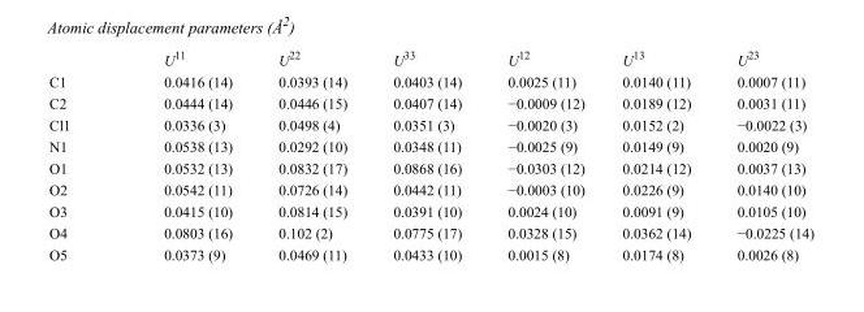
<table><thead><tr><td></td><td>U<sup>11</sup></td><td>U<sup>22</sup></td><td>U<sup>33</sup></td><td>U<sup>12</sup></td><td>U<sup>13</sup></td><td>U<sup>23</sup></td></tr></thead><tbody><tr><td>C1</td><td>0.0416 (14)</td><td>0.0393 (14)</td><td>0.0403 (14)</td><td>0.0025 (11)</td><td>0.0140 (11)</td><td>0.0007 (11)</td></tr><tr><td>C2</td><td>0.0444 (14)</td><td>0.0446 (15)</td><td>0.0407 (14)</td><td>−0.0009 (12)</td><td>0.0189 (12)</td><td>0.0031 (11)</td></tr><tr><td>Cl1</td><td>0.0336 (3)</td><td>0.0498 (4)</td><td>0.0351 (3)</td><td>−0.0020 (3)</td><td>0.0152 (2)</td><td>−0.0022 (3)</td></tr><tr><td>N1</td><td>0.0538 (13)</td><td>0.0292 (10)</td><td>0.0348 (11)</td><td>−0.0025 (9)</td><td>0.0149 (9)</td><td>0.0020 (9)</td></tr><tr><td>O1</td><td>0.0532 (13)</td><td>0.0832 (17)</td><td>0.0868 (16)</td><td>−0.0303 (12)</td><td>0.0214 (12)</td><td>0.0037 (13)</td></tr><tr><td>O2</td><td>0.0542 (11)</td><td>0.0726 (14)</td><td>0.0442 (11)</td><td>−0.0003 (10)</td><td>0.0226 (9)</td><td>0.0140 (10)</td></tr><tr><td>O3</td><td>0.0415 (10)</td><td>0.0814 (15)</td><td>0.0391 (10)</td><td>0.0024 (10)</td><td>0.0091 (9)</td><td>0.0105 (10)</td></tr><tr><td>O4</td><td>0.0803 (16)</td><td>0.102 (2)</td><td>0.0775 (17)</td><td>0.0328 (15)</td><td>0.0362 (14)</td><td>−0.0225 (14)</td></tr><tr><td>O5</td><td>0.0373 (9)</td><td>0.0469 (11)</td><td>0.0433 (10)</td><td>0.0015 (8)</td><td>0.0174 (8)</td><td>0.0026 (8)</td></tr></tbody></table>